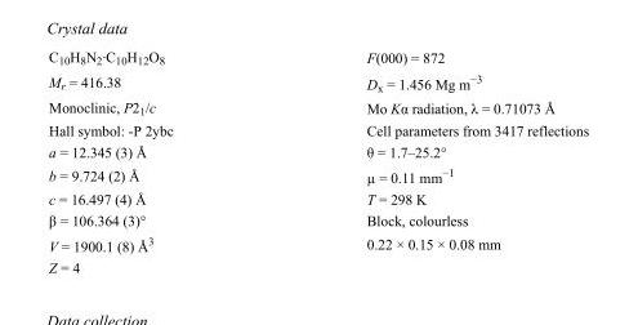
<table><tbody><tr><td>C<sub>10</sub>H<sub>8</sub>N<sub>2</sub>·C<sub>10</sub>H<sub>12</sub>O<sub>8</sub></td><td>F(000) = 872</td></tr><tr><td>M<sub>r</sub> = 416.38</td><td>D<sub>x</sub> = 1.456 Mg m<sup>−3</sup></td></tr><tr><td>Monoclinic, P2<sub>1</sub>/c</td><td>Mo Kα radiation, λ = 0.71073 Å</td></tr><tr><td>Hall symbol: -P 2ybc</td><td>Cell parameters from 3417 reflections</td></tr><tr><td>a = 12.345 (3) Å</td><td>θ = 1.7–25.2°</td></tr><tr><td>b = 9.724 (2) Å</td><td>µ = 0.11 mm<sup>−1</sup></td></tr><tr><td>c = 16.497 (4) Å</td><td>T = 298 K</td></tr><tr><td>β = 106.364 (3)°</td><td>Block, colourless</td></tr><tr><td>V = 1900.1 (8) Å<sup>3</sup></td><td>0.22 × 0.15 × 0.08 mm</td></tr><tr><td>Z = 4</td><td></td></tr></tbody></table>